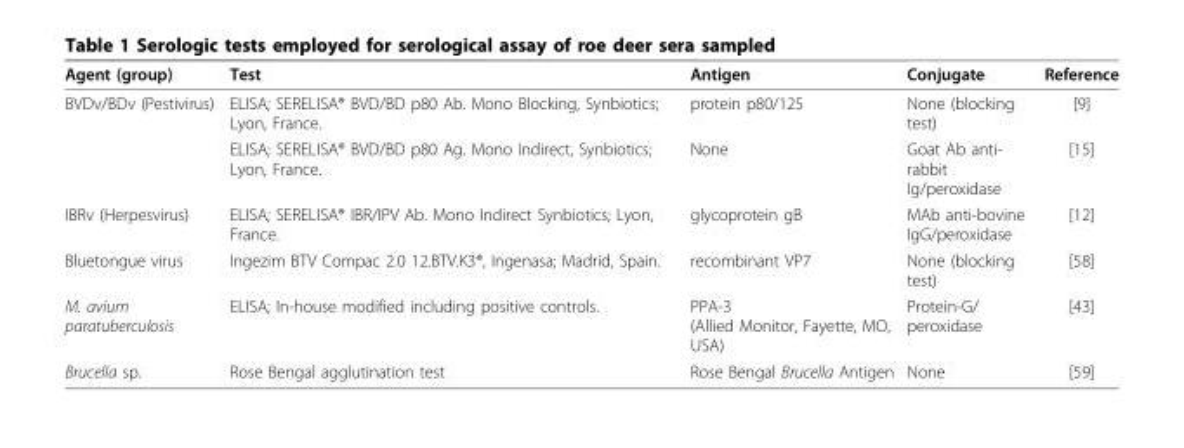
<table><thead><tr><td>Agent (group)</td><td>Test</td><td>Antigen</td><td>Conjugate</td><td>Reference</td></tr></thead><tbody><tr><td rowspan="2">BVDv/BDv (Pestivirus)</td><td>ELISA; SERELISA<sup>®</sup> BVD/BD p80 Ab. Mono Blocking, Synbiotics; Lyon, France.</td><td>protein p80/125</td><td>None (blocking test)</td><td>[9]</td></tr><tr><td>ELISA; SERELISA<sup>®</sup> BVD/BD p80 Ag. Mono Indirect, Synbiotics; Lyon, France.</td><td>None</td><td>Goat Ab anti- rabbit Ig/peroxidase</td><td>[15]</td></tr><tr><td>IBRv (Herpesvirus)</td><td>ELISA; SERELISA<sup>®</sup> IBR/IPV Ab. Mono Indirect Synbiotics; Lyon, France.</td><td>glycoprotein gB</td><td>MAb anti-bovine IgG/peroxidase</td><td>[12]</td></tr><tr><td>Bluetongue virus</td><td>Ingezim BTV Compac 2.0 12.BTV.K3<sup>®</sup>, Ingenasa; Madrid, Spain.</td><td>recombinant VP7</td><td>None (blocking test)</td><td>[58]</td></tr><tr><td>M. avium paratuberculosis</td><td>ELISA; In-house modified including positive controls.</td><td>PPA-3 (Allied Monitor, Fayette, MO, USA)</td><td>Protein-G/ peroxidase</td><td>[43]</td></tr><tr><td>Brucella sp.</td><td>Rose Bengal agglutination test</td><td>Rose Bengal Brucella Antigen</td><td>None</td><td>[59]</td></tr></tbody></table>